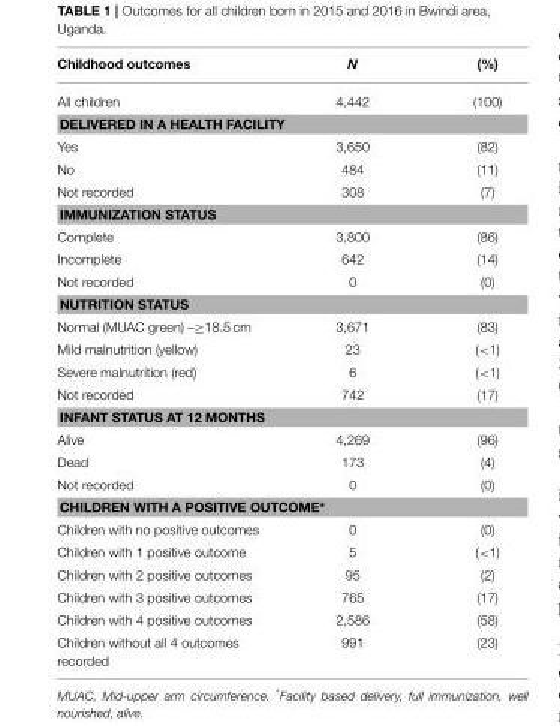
<table><thead><tr><td>Childhood outcomes</td><td>N</td><td>(%)</td></tr></thead><tbody><tr><td>All children</td><td>4,442</td><td>(100)</td></tr><tr><td colspan="3">DELIVERED IN A HEALTH FACILITY</td></tr><tr><td>Yes</td><td>3,650</td><td>(82)</td></tr><tr><td>No</td><td>484</td><td>(11)</td></tr><tr><td>Not recorded</td><td>308</td><td>(7)</td></tr><tr><td colspan="3">IMMUNIZATION STATUS</td></tr><tr><td>Complete</td><td>3,800</td><td>(86)</td></tr><tr><td>Incomplete</td><td>642</td><td>(14)</td></tr><tr><td>Not recorded</td><td>0</td><td>(0)</td></tr><tr><td colspan="3">NUTRITION STATUS</td></tr><tr><td>Normal (MUAC green) –≥18.5 cm</td><td>3,671</td><td>(83)</td></tr><tr><td>Mild malnutrition (yellow)</td><td>23</td><td>(&lt;1)</td></tr><tr><td>Severe malnutrition (red)</td><td>6</td><td>(&lt;1)</td></tr><tr><td>Not recorded</td><td>742</td><td>(17)</td></tr><tr><td colspan="3">INFANT STATUS AT 12 MONTHS</td></tr><tr><td>Alive</td><td>4,269</td><td>(96)</td></tr><tr><td>Dead</td><td>173</td><td>(4)</td></tr><tr><td>Not recorded</td><td>0</td><td>(0)</td></tr><tr><td colspan="3">CHILDREN WITH A POSITIVE OUTCOME*</td></tr><tr><td>Children with no positive outcomes</td><td>0</td><td>(0)</td></tr><tr><td>Children with 1 positive outcome</td><td>5</td><td>(&lt;1)</td></tr><tr><td>Children with 2 positive outcomes</td><td>95</td><td>(2)</td></tr><tr><td>Children with 3 positive outcomes</td><td>765</td><td>(17)</td></tr><tr><td>Children with 4 positive outcomes</td><td>2,586</td><td>(58)</td></tr><tr><td>Children without all 4 outcomes recorded</td><td>991</td><td>(23)</td></tr></tbody></table>